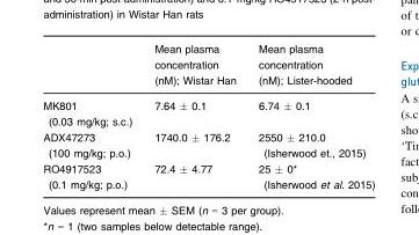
<table><thead><tr><td></td><td>Mean plasma concentration (nM); Wistar Han</td><td>Mean plasma concentration (nM); Lister-hooded</td></tr></thead><tbody><tr><td>MK801 (0.03 mg/kg; s.c.)</td><td>7.64 ± 0.1</td><td>6.74 ± 0.1</td></tr><tr><td>ADX47273 (100 mg/kg; p.o.)</td><td>1740.0 ± 176.2</td><td>2550 ± 210.0 (Isherwood et., 2015)</td></tr><tr><td>RO4917523 (0.1 mg/kg; p.o.)</td><td>72.4 ± 4.77</td><td>25 � 0* (Isherwood et al. 2015)</td></tr></tbody></table>